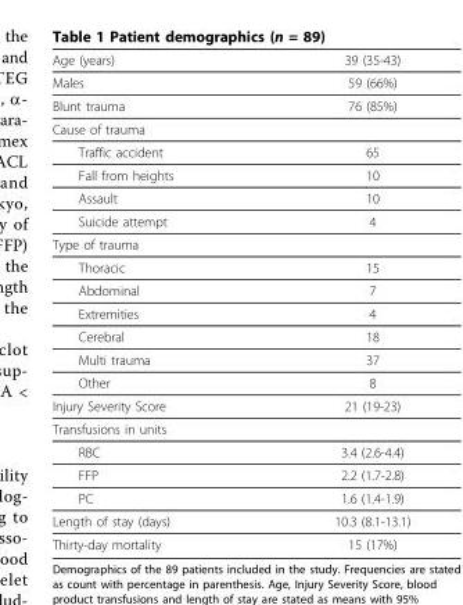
<table><thead><tr><td>Age (years)</td><td>39 (35-43)</td></tr></thead><tbody><tr><td>Males</td><td>59 (66%)</td></tr><tr><td>Blunt trauma</td><td>76 (85%)</td></tr><tr><td colspan="2">Cause of trauma</td></tr><tr><td>Traffic accident</td><td>65</td></tr><tr><td>Fall from heights</td><td>10</td></tr><tr><td>Assault</td><td>10</td></tr><tr><td>Suicide attempt</td><td>4</td></tr><tr><td colspan="2">Type of trauma</td></tr><tr><td>Thoracic</td><td>15</td></tr><tr><td>Abdominal</td><td>7</td></tr><tr><td>Extremities</td><td>4</td></tr><tr><td>Cerebral</td><td>18</td></tr><tr><td>Multi trauma</td><td>37</td></tr><tr><td>Other</td><td>8</td></tr><tr><td>Injury Severity Score</td><td>21 (19-23)</td></tr><tr><td colspan="2">Transfusions in units</td></tr><tr><td>RBC</td><td>3.4 (2.6-4.4)</td></tr><tr><td>FFP</td><td>2.2 (1.7-2.8)</td></tr><tr><td>PC</td><td>1.6 (1.4-1.9)</td></tr><tr><td>Length of stay (days)</td><td>10.3 (8.1-13.1)</td></tr><tr><td>Thirty-day mortality</td><td>15 (17%)</td></tr></tbody></table>